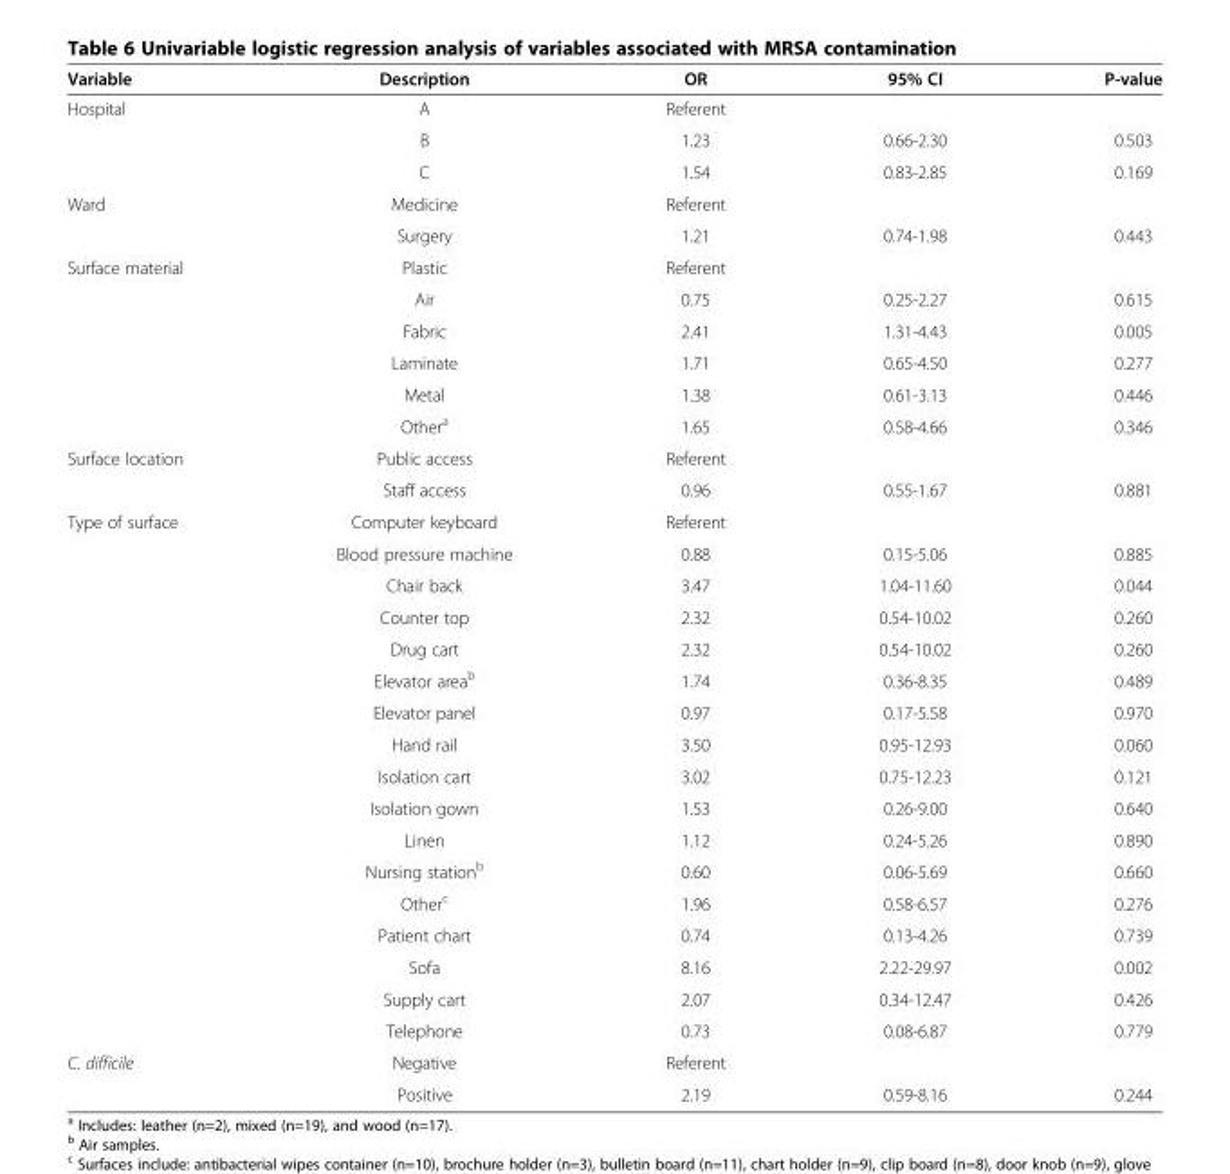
<table><thead><tr><td>Variable</td><td>Description</td><td>OR</td><td>95% CI</td><td>P-value</td></tr></thead><tbody><tr><td rowspan="3">Hospital</td><td>A</td><td>Referent</td><td></td><td></td></tr><tr><td>B</td><td>1.23</td><td>0.66-2.30</td><td>0.503</td></tr><tr><td>C</td><td>1.54</td><td>0.83-2.85</td><td>0.169</td></tr><tr><td rowspan="2">Ward</td><td>Medicine</td><td>Referent</td><td></td><td></td></tr><tr><td>Surgery</td><td>1.21</td><td>0.74-1.98</td><td>0.443</td></tr><tr><td rowspan="6">Surface material</td><td>Plastic</td><td>Referent</td><td></td><td></td></tr><tr><td>Air</td><td>0.75</td><td>0.25-2.27</td><td>0.615</td></tr><tr><td>Fabric</td><td>2.41</td><td>1.31-4.43</td><td>0.005</td></tr><tr><td>Laminate</td><td>1.71</td><td>0.65-4.50</td><td>0.277</td></tr><tr><td>Metal</td><td>1.38</td><td>0.61-3.13</td><td>0.446</td></tr><tr><td>Other<sup>a</sup></td><td>1.65</td><td>0.58-4.66</td><td>0.346</td></tr><tr><td rowspan="2">Surface location</td><td>Public access</td><td>Referent</td><td></td><td></td></tr><tr><td>Staff access</td><td>0.96</td><td>0.55-1.67</td><td>0.881</td></tr><tr><td rowspan="17">Type of surface</td><td>Computer keyboard</td><td>Referent</td><td></td><td></td></tr><tr><td>Blood pressure machine</td><td>0.88</td><td>0.15-5.06</td><td>0.885</td></tr><tr><td>Chair back</td><td>3.47</td><td>1.04-11.60</td><td>0.044</td></tr><tr><td>Counter top</td><td>2.32</td><td>0.54-10.02</td><td>0.260</td></tr><tr><td>Drug cart</td><td>2.32</td><td>0.54-10.02</td><td>0.260</td></tr><tr><td>Elevator area<sup>b</sup></td><td>1.74</td><td>0.36-8.35</td><td>0.489</td></tr><tr><td>Elevator panel</td><td>0.97</td><td>0.17-5.58</td><td>0.970</td></tr><tr><td>Hand rail</td><td>3.50</td><td>0.95-12.93</td><td>0.060</td></tr><tr><td>Isolation cart</td><td>3.02</td><td>0.75-12.23</td><td>0.121</td></tr><tr><td>Isolation gown</td><td>1.53</td><td>0.26-9.00</td><td>0.640</td></tr><tr><td>Linen</td><td>1.12</td><td>0.24-5.26</td><td>0.890</td></tr><tr><td>Nursing station<sup>b</sup></td><td>0.60</td><td>0.06-5.69</td><td>0.660</td></tr><tr><td>Other<sup>c</sup></td><td>1.96</td><td>0.58-6.57</td><td>0.276</td></tr><tr><td>Patient chart</td><td>0.74</td><td>0.13-4.26</td><td>0.739</td></tr><tr><td>Sofa</td><td>8.16</td><td>2.22-29.97</td><td>0.002</td></tr><tr><td>Supply cart</td><td>2.07</td><td>0.34-12.47</td><td>0.426</td></tr><tr><td>Telephone</td><td>0.73</td><td>0.08-6.87</td><td>0.779</td></tr><tr><td rowspan="2">C. difficile</td><td>Negative</td><td>Referent</td><td></td><td></td></tr><tr><td>Positive</td><td>2.19</td><td>0.59-8.16</td><td>0.244</td></tr></tbody></table>